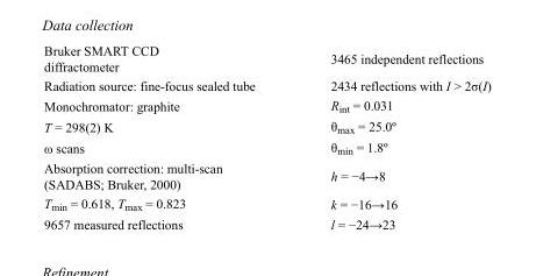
<table><tbody><tr><td>Bruker SMART CCD diffractometer</td><td>3465 independent reflections</td></tr><tr><td>Radiation source: fine-focus sealed tube</td><td>2434 reflections with I &gt; 2σ(I)</td></tr><tr><td>Monochromator: graphite</td><td>R<sub>int</sub> = 0.031</td></tr><tr><td>T = 298(2) K</td><td>θ<sub>max</sub> = 25.0º</td></tr><tr><td>ω scans</td><td>θ<sub>min</sub> = 1.8º</td></tr><tr><td>Absorption correction: multi-scan (SADABS; Bruker, 2000)</td><td>h = −4→8</td></tr><tr><td>T<sub>min</sub> = 0.618, T<sub>max</sub> = 0.823</td><td>k = −16→16</td></tr><tr><td>9657 measured reflections</td><td>l = −24→23</td></tr></tbody></table>